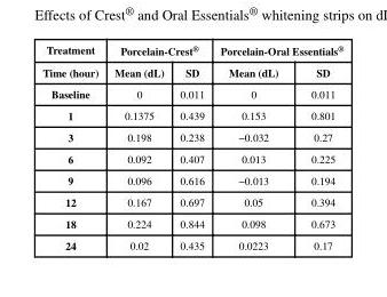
<table><thead><tr><td rowspan="2">Treatment Time (hour)</td><td colspan="2">Porcelain-Crest<sup>®</sup></td><td colspan="2">Porcelain-Oral Essentials<sup>®</sup></td></tr><tr><td>Mean (dL)</td><td>SD</td><td>Mean (dL)</td><td>SD</td></tr></thead><tbody><tr><td>Baseline</td><td>0</td><td>0.011</td><td>0</td><td>0.011</td></tr><tr><td>1</td><td>0.1375</td><td>0.439</td><td>0.153</td><td>0.801</td></tr><tr><td>3</td><td>0.198</td><td>0.238</td><td>−0.032</td><td>0.27</td></tr><tr><td>6</td><td>0.092</td><td>0.407</td><td>0.013</td><td>0.225</td></tr><tr><td>9</td><td>0.096</td><td>0.616</td><td>−0.013</td><td>0.194</td></tr><tr><td>12</td><td>0.167</td><td>0.697</td><td>0.05</td><td>0.394</td></tr><tr><td>18</td><td>0.224</td><td>0.844</td><td>0.098</td><td>0.673</td></tr><tr><td>24</td><td>0.02</td><td>0.435</td><td>0.0223</td><td>0.17</td></tr></tbody></table>